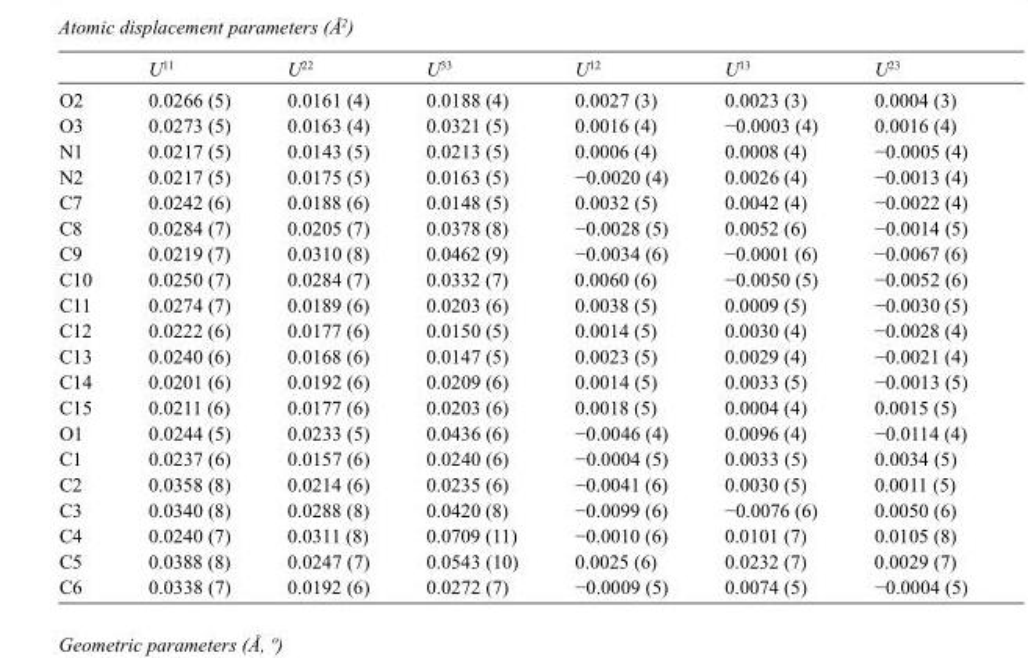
<table><thead><tr><td></td><td>U<sup>11</sup></td><td>U<sup>22</sup></td><td>U<sup>33</sup></td><td>U<sup>12</sup></td><td>U<sup>13</sup></td><td>U<sup>23</sup></td></tr></thead><tbody><tr><td>O2</td><td>0.0266 (5)</td><td>0.0161 (4)</td><td>0.0188 (4)</td><td>0.0027 (3)</td><td>0.0023 (3)</td><td>0.0004 (3)</td></tr><tr><td>O3</td><td>0.0273 (5)</td><td>0.0163 (4)</td><td>0.0321 (5)</td><td>0.0016 (4)</td><td>−0.0003 (4)</td><td>0.0016 (4)</td></tr><tr><td>N1</td><td>0.0217 (5)</td><td>0.0143 (5)</td><td>0.0213 (5)</td><td>0.0006 (4)</td><td>0.0008 (4)</td><td>−0.0005 (4)</td></tr><tr><td>N2</td><td>0.0217 (5)</td><td>0.0175 (5)</td><td>0.0163 (5)</td><td>−0.0020 (4)</td><td>0.0026 (4)</td><td>−0.0013 (4)</td></tr><tr><td>C7</td><td>0.0242 (6)</td><td>0.0188 (6)</td><td>0.0148 (5)</td><td>0.0032 (5)</td><td>0.0042 (4)</td><td>−0.0022 (4)</td></tr><tr><td>C8</td><td>0.0284 (7)</td><td>0.0205 (7)</td><td>0.0378 (8)</td><td>−0.0028 (5)</td><td>0.0052 (6)</td><td>−0.0014 (5)</td></tr><tr><td>C9</td><td>0.0219 (7)</td><td>0.0310 (8)</td><td>0.0462 (9)</td><td>−0.0034 (6)</td><td>−0.0001 (6)</td><td>−0.0067 (6)</td></tr><tr><td>C10</td><td>0.0250 (7)</td><td>0.0284 (7)</td><td>0.0332 (7)</td><td>0.0060 (6)</td><td>−0.0050 (5)</td><td>−0.0052 (6)</td></tr><tr><td>C11</td><td>0.0274 (7)</td><td>0.0189 (6)</td><td>0.0203 (6)</td><td>0.0038 (5)</td><td>0.0009 (5)</td><td>−0.0030 (5)</td></tr><tr><td>C12</td><td>0.0222 (6)</td><td>0.0177 (6)</td><td>0.0150 (5)</td><td>0.0014 (5)</td><td>0.0030 (4)</td><td>−0.0028 (4)</td></tr><tr><td>C13</td><td>0.0240 (6)</td><td>0.0168 (6)</td><td>0.0147 (5)</td><td>0.0023 (5)</td><td>0.0029 (4)</td><td>−0.0021 (4)</td></tr><tr><td>C14</td><td>0.0201 (6)</td><td>0.0192 (6)</td><td>0.0209 (6)</td><td>0.0014 (5)</td><td>0.0033 (5)</td><td>−0.0013 (5)</td></tr><tr><td>C15</td><td>0.0211 (6)</td><td>0.0177 (6)</td><td>0.0203 (6)</td><td>0.0018 (5)</td><td>0.0004 (4)</td><td>0.0015 (5)</td></tr><tr><td>O1</td><td>0.0244 (5)</td><td>0.0233 (5)</td><td>0.0436 (6)</td><td>−0.0046 (4)</td><td>0.0096 (4)</td><td>−0.0114 (4)</td></tr><tr><td>C1</td><td>0.0237 (6)</td><td>0.0157 (6)</td><td>0.0240 (6)</td><td>−0.0004 (5)</td><td>0.0033 (5)</td><td>0.0034 (5)</td></tr><tr><td>C2</td><td>0.0358 (8)</td><td>0.0214 (6)</td><td>0.0235 (6)</td><td>−0.0041 (6)</td><td>0.0030 (5)</td><td>0.0011 (5)</td></tr><tr><td>C3</td><td>0.0340 (8)</td><td>0.0288 (8)</td><td>0.0420 (8)</td><td>−0.0099 (6)</td><td>−0.0076 (6)</td><td>0.0050 (6)</td></tr><tr><td>C4</td><td>0.0240 (7)</td><td>0.0311 (8)</td><td>0.0709 (11)</td><td>−0.0010 (6)</td><td>0.0101 (7)</td><td>0.0105 (8)</td></tr><tr><td>C5</td><td>0.0388 (8)</td><td>0.0247 (7)</td><td>0.0543 (10)</td><td>0.0025 (6)</td><td>0.0232 (7)</td><td>0.0029 (7)</td></tr><tr><td>C6</td><td>0.0338 (7)</td><td>0.0192 (6)</td><td>0.0272 (7)</td><td>−0.0009 (5)</td><td>0.0074 (5)</td><td>−0.0004 (5)</td></tr></tbody></table>